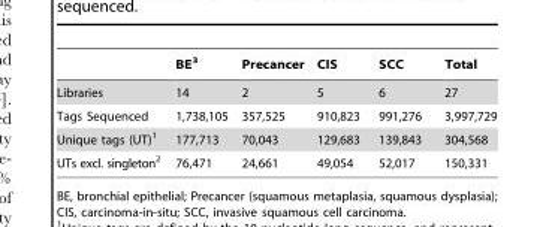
<table><thead><tr><td></td><td>BE<sup>3</sup></td><td>Precancer</td><td>CIS</td><td>SCC</td><td>Total</td></tr></thead><tbody><tr><td>Libraries</td><td>14</td><td>2</td><td>5</td><td>6</td><td>27</td></tr><tr><td>Tags Sequenced</td><td>1,738,105</td><td>357,525</td><td>910,823</td><td>991,276</td><td>3,997,729</td></tr><tr><td>Unique tags (UT)<sup>1</sup></td><td>177,713</td><td>70,043</td><td>129,683</td><td>139,843</td><td>304,568</td></tr><tr><td>UTs excl. singleton<sup>2</sup></td><td>76,471</td><td>24,661</td><td>49,054</td><td>52,017</td><td>150,331</td></tr></tbody></table>